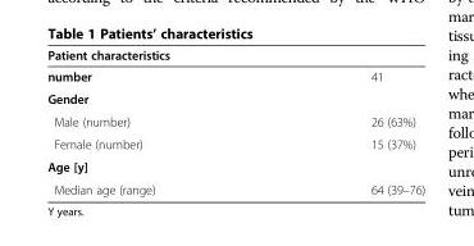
<table><thead><tr><td colspan="2">Patient characteristics</td></tr><tr><td>number</td><td>41</td></tr></thead><tbody><tr><td colspan="2">Gender</td></tr><tr><td>Male (number)</td><td>26 (63%)</td></tr><tr><td>Female (number)</td><td>15 (37%)</td></tr><tr><td colspan="2">Age [y]</td></tr><tr><td>Median age (range)</td><td>64 (39–76)</td></tr></tbody></table>